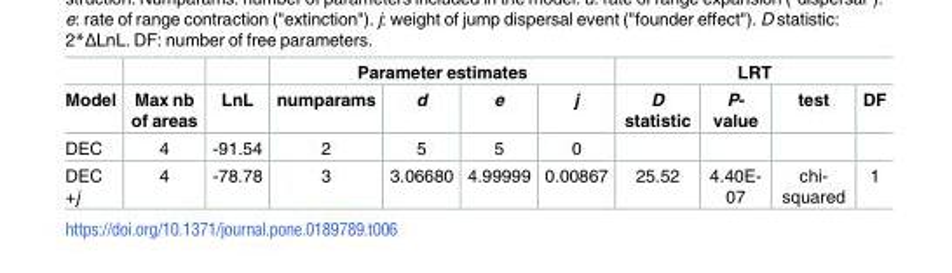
<table><thead><tr><td rowspan="2">Model</td><td rowspan="2">Max nb of areas</td><td rowspan="2">LnL</td><td colspan="4">Parameter estimates</td><td colspan="4">LRT</td></tr><tr><td>numparams</td><td>d</td><td>e</td><td>j</td><td>D statistic</td><td>P- value</td><td>test</td><td>DF</td></tr></thead><tbody><tr><td>DEC</td><td>4</td><td>-91.54</td><td>2</td><td>5</td><td>5</td><td>0</td><td></td><td></td><td></td><td></td></tr><tr><td>DEC +j</td><td>4</td><td>-78.78</td><td>3</td><td>3.06680</td><td>4.99999</td><td>0.00867</td><td>25.52</td><td>4.40E- 07</td><td>chi- squared</td><td>1</td></tr></tbody></table>